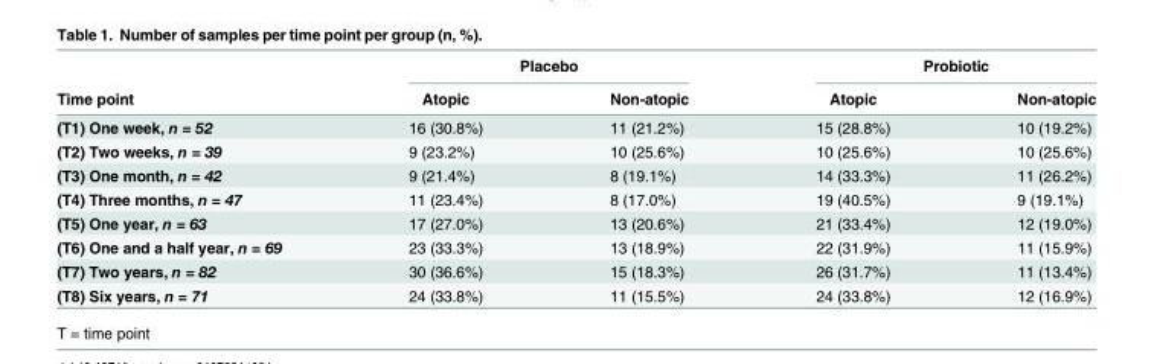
<table><thead><tr><td rowspan="2">Time point</td><td colspan="2">Placebo</td><td colspan="2">Probiotic</td></tr><tr><td>Atopic</td><td>Non-atopic</td><td>Atopic</td><td>Non-atopic</td></tr></thead><tbody><tr><td>(T1) One week, n = 52</td><td>16 (30.8%)</td><td>11 (21.2%)</td><td>15 (28.8%)</td><td>10 (19.2%)</td></tr><tr><td>(T2) Two weeks, n = 39</td><td>9 (23.2%)</td><td>10 (25.6%)</td><td>10 (25.6%)</td><td>10 (25.6%)</td></tr><tr><td>(T3) One month, n = 42</td><td>9 (21.4%)</td><td>8 (19.1%)</td><td>14 (33.3%)</td><td>11 (26.2%)</td></tr><tr><td>(T4) Three months, n = 47</td><td>11 (23.4%)</td><td>8 (17.0%)</td><td>19 (40.5%)</td><td>9 (19.1%)</td></tr><tr><td>(T5) One year, n = 63</td><td>17 (27.0%)</td><td>13 (20.6%)</td><td>21 (33.4%)</td><td>12 (19.0%)</td></tr><tr><td>(T6) One and a half year, n = 69</td><td>23 (33.3%)</td><td>13 (18.9%)</td><td>22 (31.9%)</td><td>11 (15.9%)</td></tr><tr><td>(T7) Two years, n = 82</td><td>30 (36.6%)</td><td>15 (18.3%)</td><td>26 (31.7%)</td><td>11 (13.4%)</td></tr><tr><td>(T8) Six years, n = 71</td><td>24 (33.8%)</td><td>11 (15.5%)</td><td>24 (33.8%)</td><td>12 (16.9%)</td></tr></tbody></table>